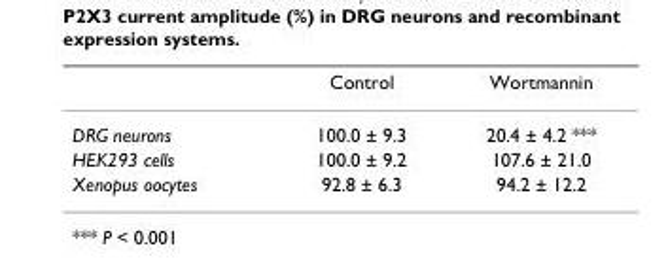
<table><thead><tr><td></td><td>Control</td><td>Wortmannin</td></tr></thead><tbody><tr><td>DRG neurons</td><td>100.0 ± 9.3</td><td>20.4 ± 4.2 ***</td></tr><tr><td>HEK293 cells</td><td>100.0 ± 9.2</td><td>107.6 ± 21.0</td></tr><tr><td>Xenopus oocytes</td><td>92.8 ± 6.3</td><td>94.2 ± 12.2</td></tr></tbody></table>